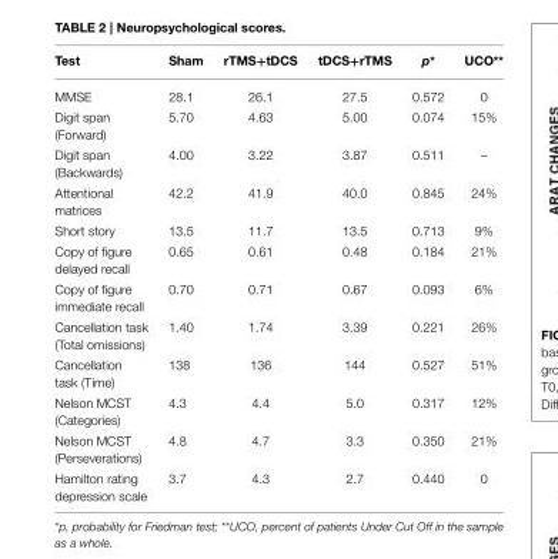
<table><thead><tr><td>Test</td><td>Sham</td><td>rTMS+tDCS</td><td>tDCS+rTMS</td><td>p*</td><td>UCO**</td></tr></thead><tbody><tr><td>MMSE</td><td>28.1</td><td>26.1</td><td>27.5</td><td>0.572</td><td>0</td></tr><tr><td>Digit span (Forward)</td><td>5.70</td><td>4.63</td><td>5.00</td><td>0.074</td><td>15%</td></tr><tr><td>Digit span (Backwards)</td><td>4.00</td><td>3.22</td><td>3.87</td><td>0.511</td><td>–</td></tr><tr><td>Attentional matrices</td><td>42.2</td><td>41.9</td><td>40.0</td><td>0.845</td><td>24%</td></tr><tr><td>Short story</td><td>13.5</td><td>11.7</td><td>13.5</td><td>0.713</td><td>9%</td></tr><tr><td>Copy of figure delayed recall</td><td>0.65</td><td>0.61</td><td>0.48</td><td>0.184</td><td>21%</td></tr><tr><td>Copy of figure immediate recall</td><td>0.70</td><td>0.71</td><td>0.67</td><td>0.093</td><td>6%</td></tr><tr><td>Cancellation task (Total omissions)</td><td>1.40</td><td>1.74</td><td>3.39</td><td>0.221</td><td>26%</td></tr><tr><td>Cancellation task (Time)</td><td>138</td><td>136</td><td>144</td><td>0.527</td><td>51%</td></tr><tr><td>Nelson MCST (Categories)</td><td>4.3</td><td>4.4</td><td>5.0</td><td>0.317</td><td>12%</td></tr><tr><td>Nelson MCST (Perseverations)</td><td>4.8</td><td>4.7</td><td>3.3</td><td>0.350</td><td>21%</td></tr><tr><td>Hamilton rating depression scale</td><td>3.7</td><td>4.3</td><td>2.7</td><td>0.440</td><td>0</td></tr></tbody></table>